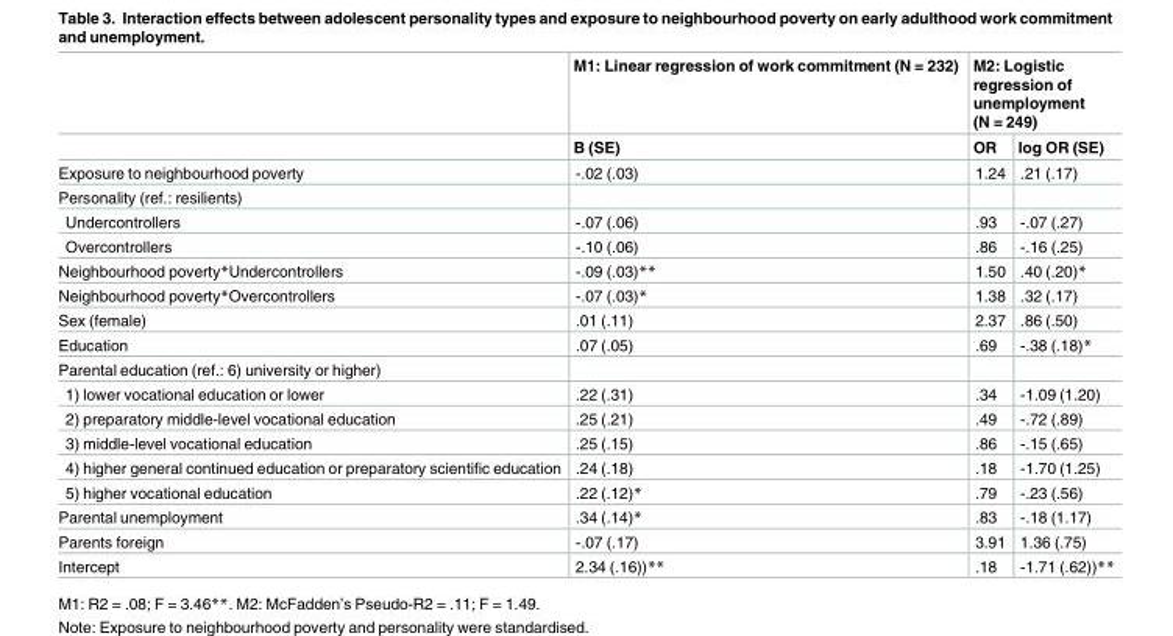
<table><thead><tr><td rowspan="2"></td><td rowspan="2">M1: Linear regression of work commitment (N = 232) B (SE)</td><td colspan="2">M2: Logistic regression of unemployment (N = 249)</td></tr><tr><td>OR</td><td>log OR (SE)</td></tr></thead><tbody><tr><td>Exposure to neighbourhood poverty</td><td>-.02 (.03)</td><td>1.24</td><td>.21 (.17)</td></tr><tr><td colspan="4">Personality (ref.: resilients)</td></tr><tr><td>Undercontrollers</td><td>-.07 (.06)</td><td>.93</td><td>-.07 (.27)</td></tr><tr><td>Overcontrollers</td><td>-.10 (.06)</td><td>.86</td><td>-.16 (.25)</td></tr><tr><td>Neighbourhood poverty*Undercontrollers</td><td>-.09 (.03)**</td><td>1.50</td><td>.40 (.20)*</td></tr><tr><td>Neighbourhood poverty*Overcontrollers</td><td>-.07 (.03)*</td><td>1.38</td><td>.32 (.17)</td></tr><tr><td>Sex (female)</td><td>.01 (.11)</td><td>2.37</td><td>.86 (.50)</td></tr><tr><td>Education</td><td>.07 (.05)</td><td>.69</td><td>-.38 (.18)*</td></tr><tr><td colspan="4">Parental education (ref.: 6) university or higher)</td></tr><tr><td>1) lower vocational education or lower</td><td>.22 (.31)</td><td>.34</td><td>-1.09 (1.20)</td></tr><tr><td>2) preparatory middle-level vocational education</td><td>.25 (.21)</td><td>.49</td><td>-.72 (.89)</td></tr><tr><td>3) middle-level vocational education</td><td>.25 (.15)</td><td>.86</td><td>-.15 (.65)</td></tr><tr><td>4) higher general continued education or preparatory scientific education</td><td>.24 (.18)</td><td>.18</td><td>-1.70 (1.25)</td></tr><tr><td>5) higher vocational education</td><td>.22 (.12)*</td><td>.79</td><td>-.23 (.56)</td></tr><tr><td>Parental unemployment</td><td>.34 (.14)*</td><td>.83</td><td>-.18 (1.17)</td></tr><tr><td>Parents foreign</td><td>-.07 (.17)</td><td>3.91</td><td>1.36 (.75)</td></tr><tr><td>Intercept</td><td>2.34 (.16))**</td><td>.18</td><td>-1.71 (.62))**</td></tr></tbody></table>